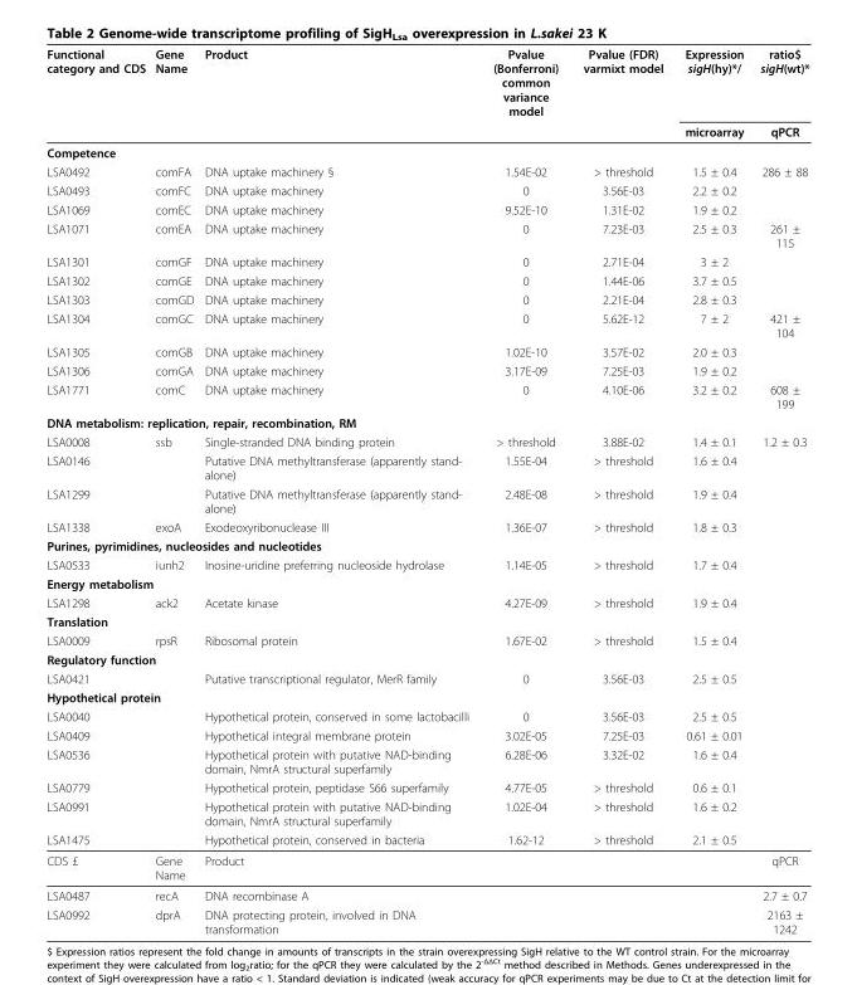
<table><thead><tr><td rowspan="2">Functional category and CDS</td><td rowspan="2">Gene Name</td><td rowspan="2">Product</td><td rowspan="2">Pvalue (Bonferroni) common variance model</td><td rowspan="2">Pvalue (FDR) varmixt model</td><td rowspan="2">Expression sigH(hy)*/ microarray</td><td rowspan="2">ratio$ sigH(wt)* qPCR</td></tr><tr></tr></thead><tbody><tr><td colspan="7">Competence</td></tr><tr><td>LSA0492</td><td>comFA</td><td>DNA uptake machinery §</td><td>1.54E-02</td><td>&gt; threshold</td><td>1.5 ± 0.4</td><td>286 ± 88</td></tr><tr><td>LSA0493</td><td>comFC</td><td>DNA uptake machinery</td><td>0</td><td>3.56E-03</td><td>2.2 ± 0.2</td><td></td></tr><tr><td>LSA1069</td><td>comEC</td><td>DNA uptake machinery</td><td>9.52E-10</td><td>1.31E-02</td><td>1.9 ± 0.2</td><td></td></tr><tr><td>LSA1071</td><td>comEA</td><td>DNA uptake machinery</td><td>0</td><td>7.23E-03</td><td>2.5 ± 0.3</td><td>261 ± 115</td></tr><tr><td>LSA1301</td><td>comGF</td><td>DNA uptake machinery</td><td>0</td><td>2.71E-04</td><td>3 ± 2</td><td></td></tr><tr><td>LSA1302</td><td>comGE</td><td>DNA uptake machinery</td><td>0</td><td>1.44E-06</td><td>3.7 ± 0.5</td><td></td></tr><tr><td>LSA1303</td><td>comGD</td><td>DNA uptake machinery</td><td>0</td><td>2.21E-04</td><td>2.8 ± 0.3</td><td></td></tr><tr><td>LSA1304</td><td>comGC</td><td>DNA uptake machinery</td><td>0</td><td>5.62E-12</td><td>7 ± 2</td><td>421 ± 104</td></tr><tr><td>LSA1305</td><td>comGB</td><td>DNA uptake machinery</td><td>1.02E-10</td><td>3.57E-02</td><td>2.0 ± 0.3</td><td></td></tr><tr><td>LSA1306</td><td>comGA</td><td>DNA uptake machinery</td><td>3.17E-09</td><td>7.25E-03</td><td>1.9 ± 0.2</td><td></td></tr><tr><td>LSA1771</td><td>comC</td><td>DNA uptake machinery</td><td>0</td><td>4.10E-06</td><td>3.2 ± 0.2</td><td>608 ± 199</td></tr><tr><td colspan="7">DNA metabolism: replication, repair, recombination, RM</td></tr><tr><td>LSA0008</td><td>ssb</td><td>Single-stranded DNA binding protein</td><td>&gt; threshold</td><td>3.88E-02</td><td>1.4 ± 0.1</td><td>1.2 ± 0.3</td></tr><tr><td>LSA0146</td><td></td><td>Putative DNA methyltransferase (apparently stand- alone)</td><td>1.55E-04</td><td>&gt; threshold</td><td>1.6 ± 0.4</td><td></td></tr><tr><td>LSA1299</td><td></td><td>Putative DNA methyltransferase (apparently stand- alone)</td><td>2.48E-08</td><td>&gt; threshold</td><td>1.9 ± 0.4</td><td></td></tr><tr><td>LSA1338</td><td>exoA</td><td>Exodeoxyribonuclease III</td><td>1.36E-07</td><td>&gt; threshold</td><td>1.8 ± 0.3</td><td></td></tr><tr><td colspan="7">Purines, pyrimidines, nucleosides and nucleotides</td></tr><tr><td>LSA0533</td><td>iunh2</td><td>Inosine-uridine preferring nucleoside hydrolase</td><td>1.14E-05</td><td>&gt; threshold</td><td>1.7 ± 0.4</td><td></td></tr><tr><td colspan="7">Energy metabolism</td></tr><tr><td>LSA1298</td><td>ack2</td><td>Acetate kinase</td><td>4.27E-09</td><td>&gt; threshold</td><td>1.9 ± 0.4</td><td></td></tr><tr><td colspan="7">Translation</td></tr><tr><td>LSA0009</td><td>rpsR</td><td>Ribosomal protein</td><td>1.67E-02</td><td>&gt; threshold</td><td>1.5 ± 0.4</td><td></td></tr><tr><td colspan="7">Regulatory function</td></tr><tr><td>LSA0421</td><td></td><td>Putative transcriptional regulator, MerR family</td><td>0</td><td>3.56E-03</td><td>2.5 ± 0.5</td><td></td></tr><tr><td colspan="7">Hypothetical protein</td></tr><tr><td>LSA0040</td><td></td><td>Hypothetical protein, conserved in some lactobacilli</td><td>0</td><td>3.56E-03</td><td>2.5 ± 0.5</td><td></td></tr><tr><td>LSA0409</td><td></td><td>Hypothetical integral membrane protein</td><td>3.02E-05</td><td>7.25E-03</td><td>0.61 ± 0.01</td><td></td></tr><tr><td>LSA0536</td><td></td><td>Hypothetical protein with putative NAD-binding domain, NmrA structural superfamily</td><td>6.28E-06</td><td>3.32E-02</td><td>1.6 ± 0.4</td><td></td></tr><tr><td>LSA0779</td><td></td><td>Hypothetical protein, peptidase S66 superfamily</td><td>4.77E-05</td><td>&gt; threshold</td><td>0.6 ± 0.1</td><td></td></tr><tr><td>LSA0991</td><td></td><td>Hypothetical protein with putative NAD-binding domain, NmrA structural superfamily</td><td>1.02E-04</td><td>&gt; threshold</td><td>1.6 ± 0.2</td><td></td></tr><tr><td>LSA1475</td><td></td><td>Hypothetical protein, conserved in bacteria</td><td>1.62-12</td><td>&gt; threshold</td><td>2.1 ± 0.5</td><td></td></tr><tr><td>CDS £</td><td>Gene Name</td><td>Product</td><td></td><td></td><td></td><td>qPCR</td></tr><tr><td>LSA0487</td><td>recA</td><td>DNA recombinase A</td><td></td><td></td><td></td><td>2.7 ± 0.7</td></tr><tr><td>LSA0992</td><td>dprA</td><td>DNA protecting protein, involved in DNA transformation</td><td></td><td></td><td></td><td>2163 ± 1242</td></tr></tbody></table>